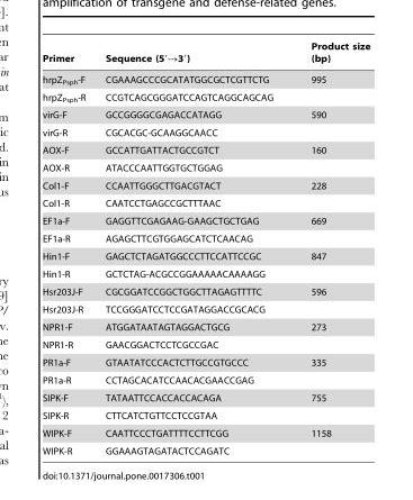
<table><thead><tr><td>Primer</td><td>Sequence (5′→3′)</td><td>Product size (bp)</td></tr></thead><tbody><tr><td>hrpZ<sub>Psph</sub>-F</td><td>CGAAAGCCCGCATATGGCGCTCGTTCTG</td><td>995</td></tr><tr><td>hrpZ<sub>Psph</sub>-R</td><td>CCGTCAGCGGGATCCAGTCAGGCAGCAG</td><td></td></tr><tr><td>virG-F</td><td>GCCGGGGCGAGACCATAGG</td><td>590</td></tr><tr><td>virG-R</td><td>CGCACGC-GCAAGGCAACC</td><td></td></tr><tr><td>AOX-F</td><td>GCCATTGATTACTGCCGTCT</td><td>160</td></tr><tr><td>AOX-R</td><td>ATACCCAATTGGTGCTGGAG</td><td></td></tr><tr><td>Col1-F</td><td>CCAATTGGGCTTGACGTACT</td><td>228</td></tr><tr><td>Col1-R</td><td>CAATCCTGAGCCGCTTTAAC</td><td></td></tr><tr><td>EF1a-F</td><td>GAGGTTCGAGAAG-GAAGCTGCTGAG</td><td>669</td></tr><tr><td>EF1a-R</td><td>AGAGCTTCGTGGAGCATCTCAACAG</td><td></td></tr><tr><td>Hin1-F</td><td>GAGCTCTAGATGGCCCTTCCATTCCGC</td><td>847</td></tr><tr><td>Hin1-R</td><td>GCTCTAG-ACGCCGGAAAAACAAAAGG</td><td></td></tr><tr><td>Hsr203J-F</td><td>CGCGGATCCGGCTGGCTTAGAGTTTTC</td><td>596</td></tr><tr><td>Hsr203J-R</td><td>TCCGGGATCCTCCGATAGGACCGCACG</td><td></td></tr><tr><td>NPR1-F</td><td>ATGGATAATAGTAGGACTGCG</td><td>273</td></tr><tr><td>NPR1-R</td><td>GAACGGACTCCTCGCCGAC</td><td></td></tr><tr><td>PR1a-F</td><td>GTAATATCCCACTCTTGCCGTGCCC</td><td>335</td></tr><tr><td>PR1a-R</td><td>CCTAGCACATCCAACACGAACCGAG</td><td></td></tr><tr><td>SIPK-F</td><td>TATAATTCCACCACCACAGA</td><td>755</td></tr><tr><td>SIPK-R</td><td>CTTCATCTGTTCCTCCGTAA</td><td></td></tr><tr><td>WIPK-F</td><td>CAATTCCCTGATTTTCCTTCGG</td><td>1158</td></tr><tr><td>WIPK-R</td><td>GGAAAGTAGATACTCCAGATC</td><td></td></tr></tbody></table>